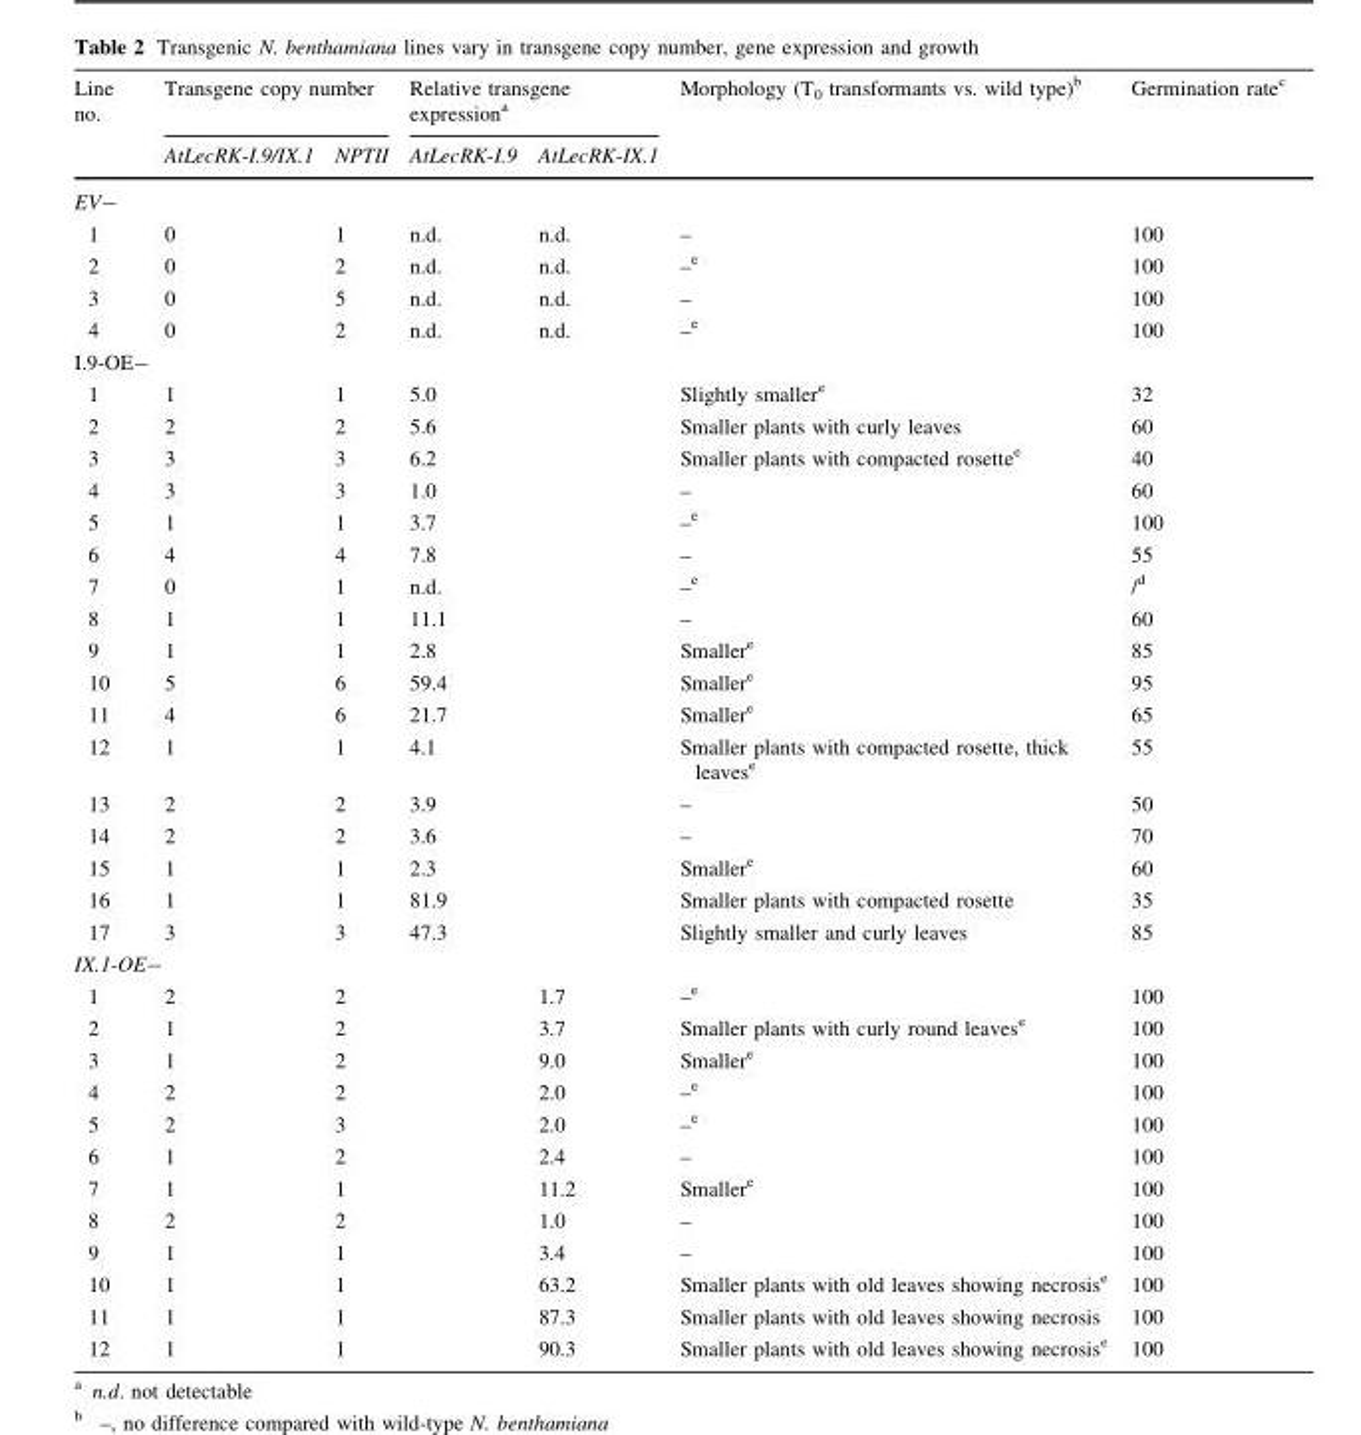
<table><thead><tr><td rowspan="2">Line no.</td><td colspan="2">Transgene copy number</td><td colspan="2">Relative transgene expression<sup>a</sup></td><td rowspan="2">Morphology (T<sub>0</sub> transformants vs. wild type)<sup>b</sup></td><td rowspan="2">Germination rate<sup>c</sup></td></tr><tr><td>AtLecRK-I.9/IX.1</td><td>NPTII</td><td>AtLecRK-I.9</td><td>AtLecRK-IX.1</td></tr></thead><tbody><tr><td colspan="7">EV-</td></tr><tr><td>1</td><td>0</td><td>1</td><td>n.d.</td><td>n.d.</td><td>–</td><td>100</td></tr><tr><td>2</td><td>0</td><td>2</td><td>n.d.</td><td>n.d.</td><td>–<sup>e</sup></td><td>100</td></tr><tr><td>3</td><td>0</td><td>5</td><td>n.d.</td><td>n.d.</td><td>–</td><td>100</td></tr><tr><td>4</td><td>0</td><td>2</td><td>n.d.</td><td>n.d.</td><td>–<sup>e</sup></td><td>100</td></tr><tr><td colspan="7">I.9-OE-</td></tr><tr><td>1</td><td>1</td><td>1</td><td>5.0</td><td></td><td>Slightly smaller<sup>e</sup></td><td>32</td></tr><tr><td>2</td><td>2</td><td>2</td><td>5.6</td><td></td><td>Smaller plants with curly leaves</td><td>60</td></tr><tr><td>3</td><td>3</td><td>3</td><td>6.2</td><td></td><td>Smaller plants with compacted rosette<sup>e</sup></td><td>40</td></tr><tr><td>4</td><td>3</td><td>3</td><td>1.0</td><td></td><td>–</td><td>60</td></tr><tr><td>5</td><td>1</td><td>1</td><td>3.7</td><td></td><td>–<sup>e</sup></td><td>100</td></tr><tr><td>6</td><td>4</td><td>4</td><td>7.8</td><td></td><td>–</td><td>55</td></tr><tr><td>7</td><td>0</td><td>1</td><td>n.d.</td><td></td><td>–<sup>e</sup></td><td>/<sup>d</sup></td></tr><tr><td>8</td><td>1</td><td>1</td><td>11.1</td><td></td><td>–</td><td>60</td></tr><tr><td>9</td><td>1</td><td>1</td><td>2.8</td><td></td><td>Smaller<sup>e</sup></td><td>85</td></tr><tr><td>10</td><td>5</td><td>6</td><td>59.4</td><td></td><td>Smaller<sup>e</sup></td><td>95</td></tr><tr><td>11</td><td>4</td><td>6</td><td>21.7</td><td></td><td>Smaller<sup>e</sup></td><td>65</td></tr><tr><td>12</td><td>1</td><td>1</td><td>4.1</td><td></td><td>Smaller plants with compacted rosette, thick leaves<sup>e</sup></td><td>55</td></tr><tr><td>13</td><td>2</td><td>2</td><td>3.9</td><td></td><td>–</td><td>50</td></tr><tr><td>14</td><td>2</td><td>2</td><td>3.6</td><td></td><td>–</td><td>70</td></tr><tr><td>15</td><td>1</td><td>1</td><td>2.3</td><td></td><td>Smaller<sup>e</sup></td><td>60</td></tr><tr><td>16</td><td>1</td><td>1</td><td>81.9</td><td></td><td>Smaller plants with compacted rosette</td><td>35</td></tr><tr><td>17</td><td>3</td><td>3</td><td>47.3</td><td></td><td>Slightly smaller and curly leaves</td><td>85</td></tr><tr><td colspan="7">IX.1-OE-</td></tr><tr><td>1</td><td>2</td><td>2</td><td></td><td>1.7</td><td>–<sup>e</sup></td><td>100</td></tr><tr><td>2</td><td>1</td><td>2</td><td></td><td>3.7</td><td>Smaller plants with curly round leaves<sup>e</sup></td><td>100</td></tr><tr><td>3</td><td>1</td><td>2</td><td></td><td>9.0</td><td>Smaller<sup>e</sup></td><td>100</td></tr><tr><td>4</td><td>2</td><td>2</td><td></td><td>2.0</td><td>–<sup>e</sup></td><td>100</td></tr><tr><td>5</td><td>2</td><td>3</td><td></td><td>2.0</td><td>–<sup>e</sup></td><td>100</td></tr><tr><td>6</td><td>1</td><td>2</td><td></td><td>2.4</td><td>–</td><td>100</td></tr><tr><td>7</td><td>1</td><td>1</td><td></td><td>11.2</td><td>Smaller<sup>e</sup></td><td>100</td></tr><tr><td>8</td><td>2</td><td>2</td><td></td><td>1.0</td><td>–</td><td>100</td></tr><tr><td>9</td><td>1</td><td>1</td><td></td><td>3.4</td><td>–</td><td>100</td></tr><tr><td>10</td><td>1</td><td>1</td><td></td><td>63.2</td><td>Smaller plants with old leaves showing necrosis<sup>e</sup></td><td>100</td></tr><tr><td>11</td><td>1</td><td>1</td><td></td><td>87.3</td><td>Smaller plants with old leaves showing necrosis</td><td>100</td></tr><tr><td>12</td><td>1</td><td>1</td><td></td><td>90.3</td><td>Smaller plants with old leaves showing necrosis<sup>e</sup></td><td>100</td></tr></tbody></table>